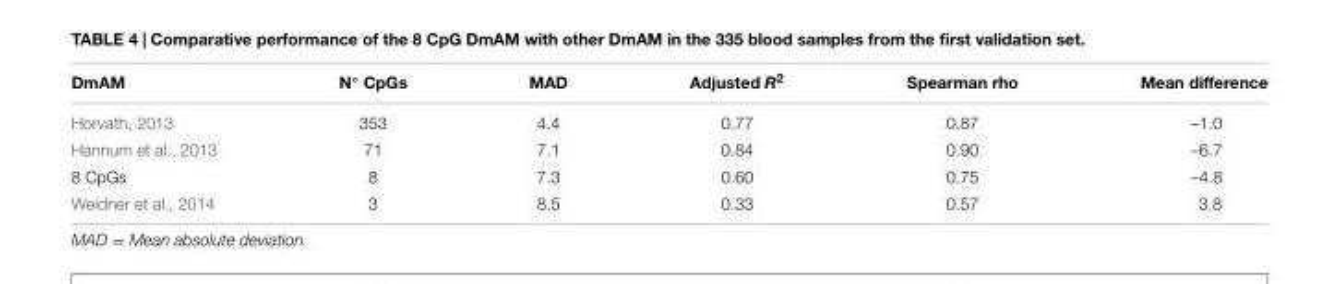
<table><thead><tr><td>DmAM</td><td>N◦ CpGs</td><td>MAD</td><td>Adjusted R<sup>2</sup></td><td>Spearman rho</td><td>Mean difference</td></tr></thead><tbody><tr><td>Horvath, 2013</td><td>353</td><td>4.4</td><td>0.77</td><td>0.87</td><td>–1.0</td></tr><tr><td>Hannum et al., 2013</td><td>71</td><td>7.1</td><td>0.84</td><td>0.90</td><td>–6.7</td></tr><tr><td>8 CpGs</td><td>8</td><td>7.3</td><td>0.60</td><td>0.75</td><td>–4.8</td></tr><tr><td>Weidner et al., 2014</td><td>3</td><td>8.5</td><td>0.33</td><td>0.57</td><td>3.8</td></tr></tbody></table>